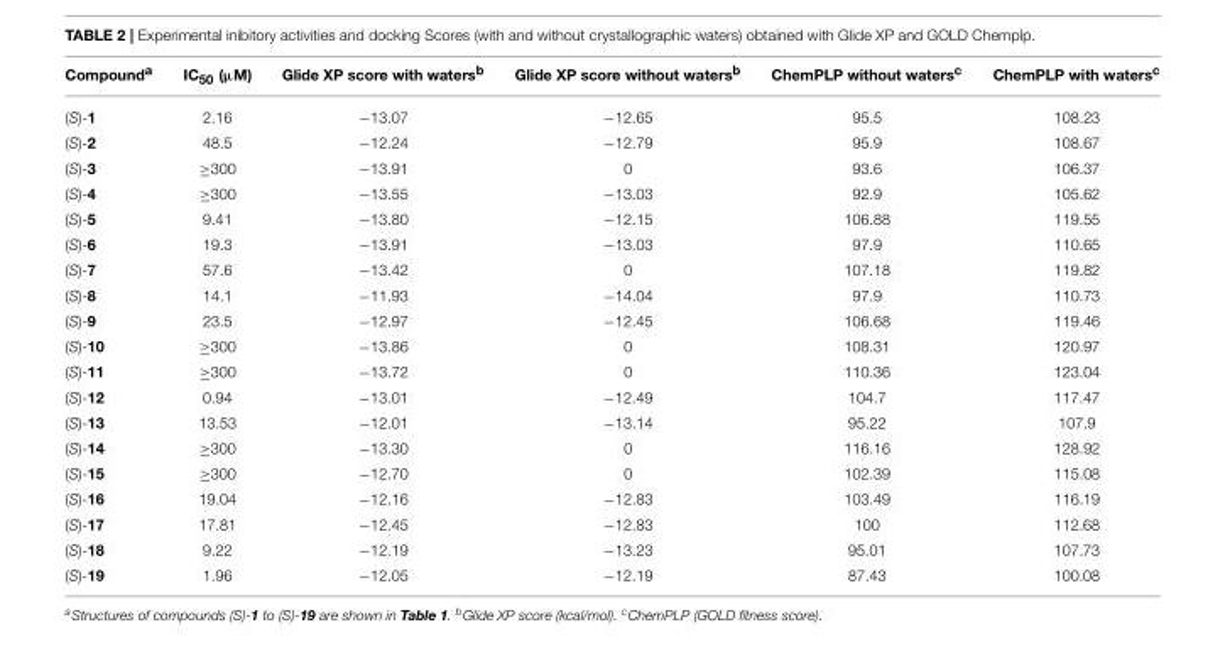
<table><thead><tr><td>Compound<sup>a</sup></td><td>IC<sub>50</sub> (µM)</td><td>Glide XP score with waters<sup>b</sup></td><td>Glide XP score without waters<sup>b</sup></td><td>ChemPLP without waters<sup>c</sup></td><td>ChemPLP with waters<sup>c</sup></td></tr></thead><tbody><tr><td>(S)-1</td><td>2.16</td><td>−13.07</td><td>−12.65</td><td>95.5</td><td>108.23</td></tr><tr><td>(S)-2</td><td>48.5</td><td>−12.24</td><td>−12.79</td><td>95.9</td><td>108.67</td></tr><tr><td>(S)-3</td><td>≥300</td><td>−13.91</td><td>0</td><td>93.6</td><td>106.37</td></tr><tr><td>(S)-4</td><td>≥300</td><td>−13.55</td><td>−13.03</td><td>92.9</td><td>105.62</td></tr><tr><td>(S)-5</td><td>9.41</td><td>−13.80</td><td>−12.15</td><td>106.88</td><td>119.55</td></tr><tr><td>(S)-6</td><td>19.3</td><td>−13.91</td><td>−13.03</td><td>97.9</td><td>110.65</td></tr><tr><td>(S)-7</td><td>57.6</td><td>−13.42</td><td>0</td><td>107.18</td><td>119.82</td></tr><tr><td>(S)-8</td><td>14.1</td><td>−11.93</td><td>−14.04</td><td>97.9</td><td>110.73</td></tr><tr><td>(S)-9</td><td>23.5</td><td>−12.97</td><td>−12.45</td><td>106.68</td><td>119.46</td></tr><tr><td>(S)-10</td><td>≥300</td><td>−13.86</td><td>0</td><td>108.31</td><td>120.97</td></tr><tr><td>(S)-11</td><td>≥300</td><td>−13.72</td><td>0</td><td>110.36</td><td>123.04</td></tr><tr><td>(S)-12</td><td>0.94</td><td>−13.01</td><td>−12.49</td><td>104.7</td><td>117.47</td></tr><tr><td>(S)-13</td><td>13.53</td><td>−12.01</td><td>−13.14</td><td>95.22</td><td>107.9</td></tr><tr><td>(S)-14</td><td>≥300</td><td>−13.30</td><td>0</td><td>116.16</td><td>128.92</td></tr><tr><td>(S)-15</td><td>≥300</td><td>−12.70</td><td>0</td><td>102.39</td><td>115.08</td></tr><tr><td>(S)-16</td><td>19.04</td><td>−12.16</td><td>−12.83</td><td>103.49</td><td>116.19</td></tr><tr><td>(S)-17</td><td>17.81</td><td>−12.45</td><td>−12.83</td><td>100</td><td>112.68</td></tr><tr><td>(S)-18</td><td>9.22</td><td>−12.19</td><td>−13.23</td><td>95.01</td><td>107.73</td></tr><tr><td>(S)-19</td><td>1.96</td><td>−12.05</td><td>−12.19</td><td>87.43</td><td>100.08</td></tr></tbody></table>